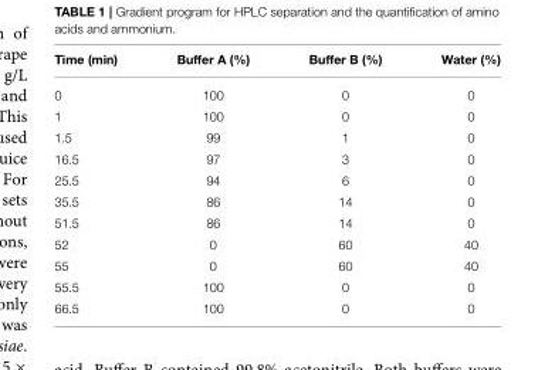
<table><thead><tr><td>Time (min)</td><td>Buffer A (%)</td><td>Buffer B (%)</td><td>Water (%)</td></tr></thead><tbody><tr><td>0</td><td>100</td><td>0</td><td>0</td></tr><tr><td>1</td><td>100</td><td>0</td><td>0</td></tr><tr><td>1.5</td><td>99</td><td>1</td><td>0</td></tr><tr><td>16.5</td><td>97</td><td>3</td><td>0</td></tr><tr><td>25.5</td><td>94</td><td>6</td><td>0</td></tr><tr><td>35.5</td><td>86</td><td>14</td><td>0</td></tr><tr><td>51.5</td><td>86</td><td>14</td><td>0</td></tr><tr><td>52</td><td>0</td><td>60</td><td>40</td></tr><tr><td>55</td><td>0</td><td>60</td><td>40</td></tr><tr><td>55.5</td><td>100</td><td>0</td><td>0</td></tr><tr><td>66.5</td><td>100</td><td>0</td><td>0</td></tr></tbody></table>